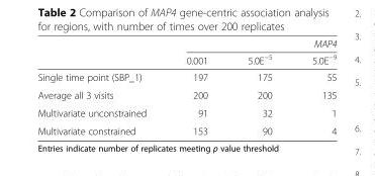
<table><thead><tr><td rowspan="2"></td><td colspan="3">MAP4</td></tr><tr><td>0.001</td><td>5.0E<sup>−5</sup></td><td>5.0E<sup>−9</sup></td></tr></thead><tbody><tr><td>Single time point (SBP_1)</td><td>197</td><td>175</td><td>55</td></tr><tr><td>Average all 3 visits</td><td>200</td><td>200</td><td>135</td></tr><tr><td>Multivariate unconstrained</td><td>91</td><td>32</td><td>1</td></tr><tr><td>Multivariate constrained</td><td>153</td><td>90</td><td>4</td></tr></tbody></table>